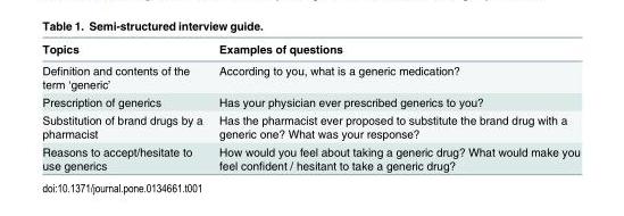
<table><thead><tr><td>Topics</td><td>Examples of questions</td></tr></thead><tbody><tr><td>Definition and contents of the term ‘generic’</td><td>According to you, what is a generic medication?</td></tr><tr><td>Prescription of generics</td><td>Has your physician ever prescribed generics to you?</td></tr><tr><td>Substitution of brand drugs by a pharmacist</td><td>Has the pharmacist ever proposed to substitute the brand drug with a generic one? What was your response?</td></tr><tr><td>Reasons to accept/hesitate to use generics</td><td>How would you feel about taking a generic drug? What would make you feel confident / hesitant to take a generic drug?</td></tr></tbody></table>